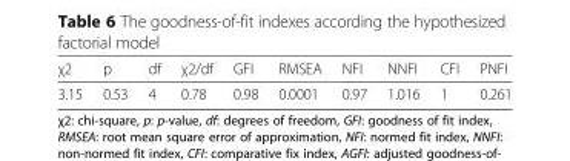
<table><thead><tr><td>χ2</td><td>p</td><td>df</td><td>χ2/df</td><td>GFI</td><td>RMSEA</td><td>NFI</td><td>NNFI</td><td>CFI</td><td>PNFI</td></tr></thead><tbody><tr><td>3.15</td><td>0.53</td><td>4</td><td>0.78</td><td>0.98</td><td>0.0001</td><td>0.97</td><td>1.016</td><td>1</td><td>0.261</td></tr></tbody></table>